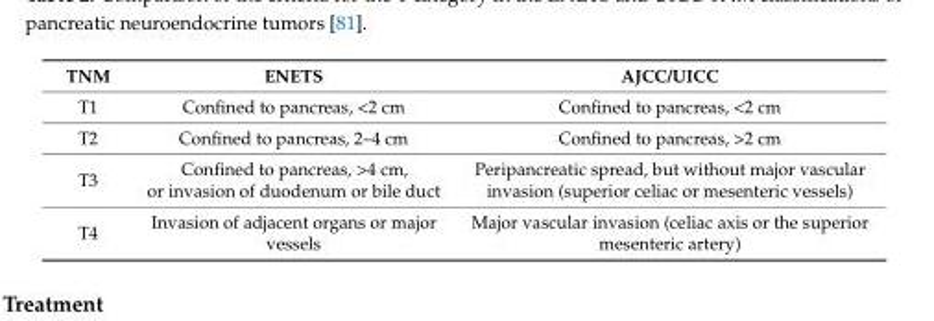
<table><thead><tr><td>TNM</td><td>ENETS</td><td>AJCC/UICC</td></tr></thead><tbody><tr><td>T1</td><td>Confined to pancreas, &lt;2 cm</td><td>Confined to pancreas, &lt;2 cm</td></tr><tr><td>T2</td><td>Confined to pancreas, 2–4 cm</td><td>Confined to pancreas, &gt;2 cm</td></tr><tr><td>T3</td><td>Confined to pancreas, &gt;4 cm, or invasion of duodenum or bile duct</td><td>Peripancreatic spread, but without major vascular invasion (superior celiac or mesenteric vessels)</td></tr><tr><td>T4</td><td>Invasion of adjacent organs or major vessels</td><td>Major vascular invasion (celiac axis or the superior mesenteric artery)</td></tr></tbody></table>